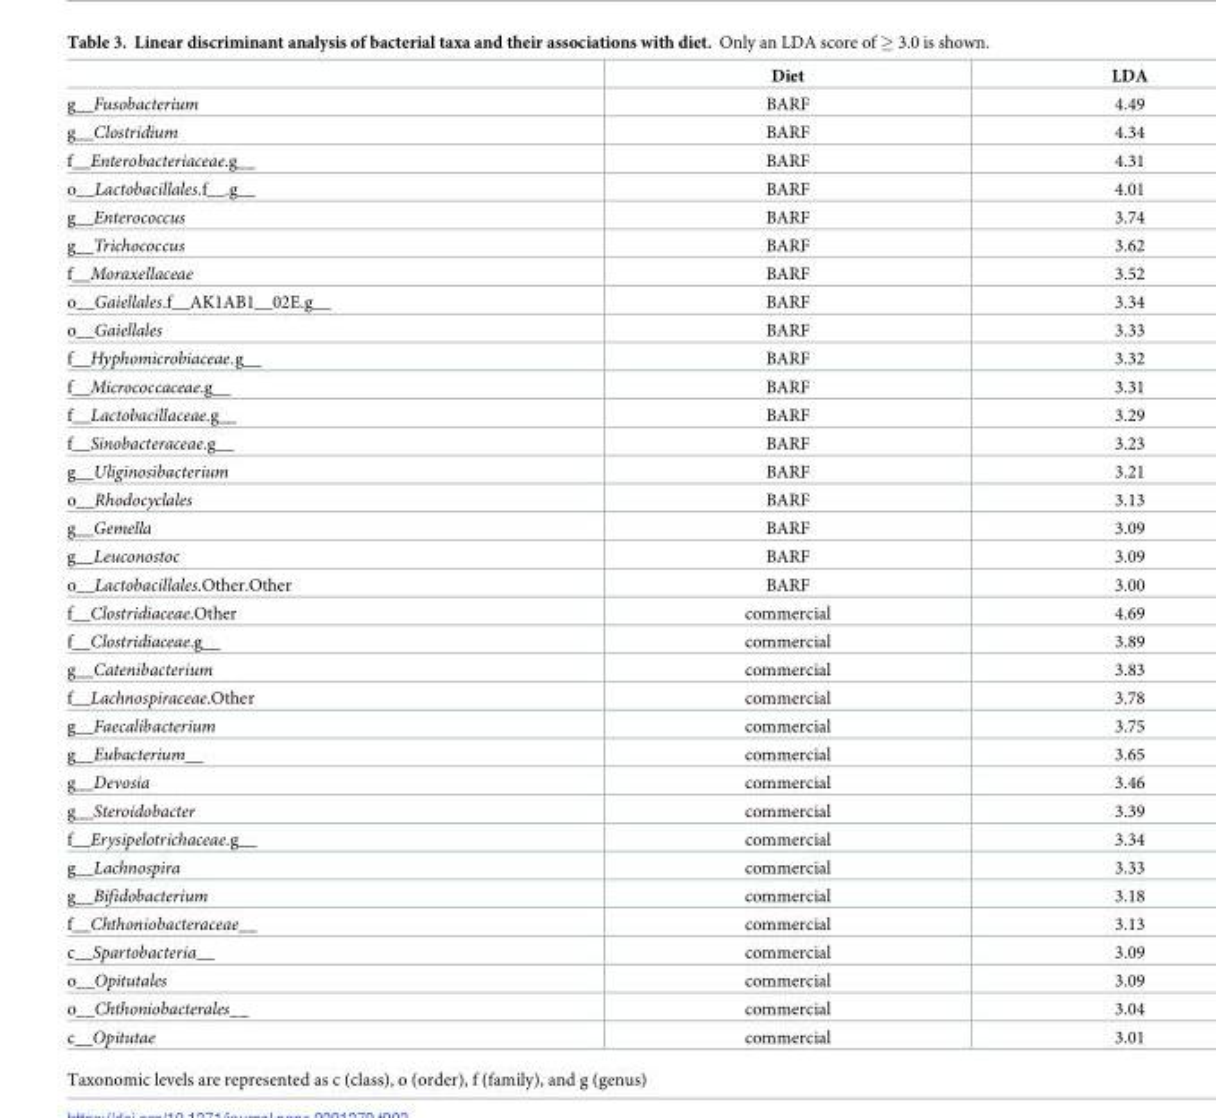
<table><thead><tr><td></td><td>Diet</td><td>LDA</td></tr></thead><tbody><tr><td>g__Fusobacterium</td><td>BARF</td><td>4.49</td></tr><tr><td>g__Clostridium</td><td>BARF</td><td>4.34</td></tr><tr><td>f__Enterobacteriaceae.g__</td><td>BARF</td><td>4.31</td></tr><tr><td>o__Lactobacillales.f__.g__</td><td>BARF</td><td>4.01</td></tr><tr><td>g__Enterococcus</td><td>BARF</td><td>3.74</td></tr><tr><td>g__Trichococcus</td><td>BARF</td><td>3.62</td></tr><tr><td>f__Moraxellaceae</td><td>BARF</td><td>3.52</td></tr><tr><td>o__Gaiellales.f__AK1AB1__02E.g__</td><td>BARF</td><td>3.34</td></tr><tr><td>o__Gaiellales</td><td>BARF</td><td>3.33</td></tr><tr><td>f__Hyphomicrobiaceae.g__</td><td>BARF</td><td>3.32</td></tr><tr><td>f__Micrococcaceae.g__</td><td>BARF</td><td>3.31</td></tr><tr><td>f__Lactobacillaceae.g__</td><td>BARF</td><td>3.29</td></tr><tr><td>f__Sinobacteraceae.g__</td><td>BARF</td><td>3.23</td></tr><tr><td>g__Uliginosibacterium</td><td>BARF</td><td>3.21</td></tr><tr><td>o__Rhodocyclales</td><td>BARF</td><td>3.13</td></tr><tr><td>g__Gemella</td><td>BARF</td><td>3.09</td></tr><tr><td>g__Leuconostoc</td><td>BARF</td><td>3.09</td></tr><tr><td>o__Lactobacillales.Other.Other</td><td>BARF</td><td>3.00</td></tr><tr><td>f__Clostridiaceae.Other</td><td>commercial</td><td>4.69</td></tr><tr><td>f__Clostridiaceae.g__</td><td>commercial</td><td>3.89</td></tr><tr><td>g__Catenibacterium</td><td>commercial</td><td>3.83</td></tr><tr><td>f__Lachnospiraceae.Other</td><td>commercial</td><td>3.78</td></tr><tr><td>g__Faecalibacterium</td><td>commercial</td><td>3.75</td></tr><tr><td>g__Eubacterium__</td><td>commercial</td><td>3.65</td></tr><tr><td>g__Devosia</td><td>commercial</td><td>3.46</td></tr><tr><td>g__Steroidobacter</td><td>commercial</td><td>3.39</td></tr><tr><td>f__Erysipelotrichaceae.g__</td><td>commercial</td><td>3.34</td></tr><tr><td>g__Lachnospira</td><td>commercial</td><td>3.33</td></tr><tr><td>g__Bifidobacterium</td><td>commercial</td><td>3.18</td></tr><tr><td>f__Chthoniobacteraceae__</td><td>commercial</td><td>3.13</td></tr><tr><td>c__Spartobacteria__</td><td>commercial</td><td>3.09</td></tr><tr><td>o__Opitutales</td><td>commercial</td><td>3.09</td></tr><tr><td>o__Chthoniobacterales__</td><td>commercial</td><td>3.04</td></tr><tr><td>c__Opitutae</td><td>commercial</td><td>3.01</td></tr></tbody></table>